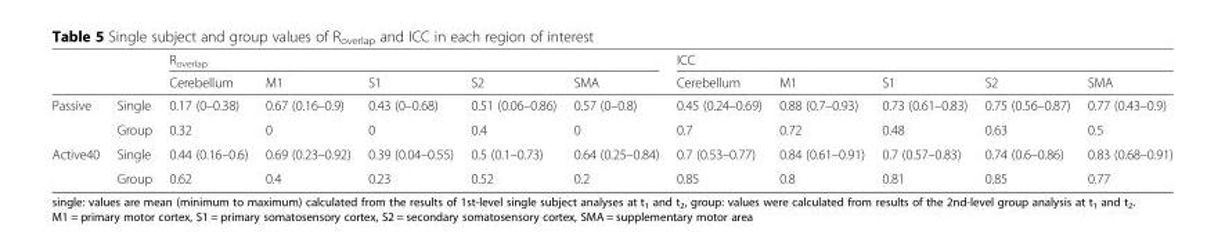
<table><thead><tr><td rowspan="2"></td><td rowspan="2"></td><td colspan="5">R<sub>overlap</sub></td><td colspan="5">ICC</td></tr><tr><td>Cerebellum</td><td>M1</td><td>S1</td><td>S2</td><td>SMA</td><td>Cerebellum</td><td>M1</td><td>S1</td><td>S2</td><td>SMA</td></tr></thead><tbody><tr><td rowspan="2">Passive</td><td>Single</td><td>0.17 (0–0.38)</td><td>0.67 (0.16–0.9)</td><td>0.43 (0–0.68)</td><td>0.51 (0.06–0.86)</td><td>0.57 (0–0.8)</td><td>0.45 (0.24–0.69)</td><td>0.88 (0.7–0.93)</td><td>0.73 (0.61–0.83)</td><td>0.75 (0.56–0.87)</td><td>0.77 (0.43–0.9)</td></tr><tr><td>Group</td><td>0.32</td><td>0</td><td>0</td><td>0.4</td><td>0</td><td>0.7</td><td>0.72</td><td>0.48</td><td>0.63</td><td>0.5</td></tr><tr><td rowspan="2">Active40</td><td>Single</td><td>0.44 (0.16–0.6)</td><td>0.69 (0.23–0.92)</td><td>0.39 (0.04–0.55)</td><td>0.5 (0.1–0.73)</td><td>0.64 (0.25–0.84)</td><td>0.7 (0.53–0.77)</td><td>0.84 (0.61–0.91)</td><td>0.7 (0.57–0.83)</td><td>0.74 (0.6–0.86)</td><td>0.83 (0.68–0.91)</td></tr><tr><td>Group</td><td>0.62</td><td>0.4</td><td>0.23</td><td>0.52</td><td>0.2</td><td>0.85</td><td>0.8</td><td>0.81</td><td>0.85</td><td>0.77</td></tr></tbody></table>